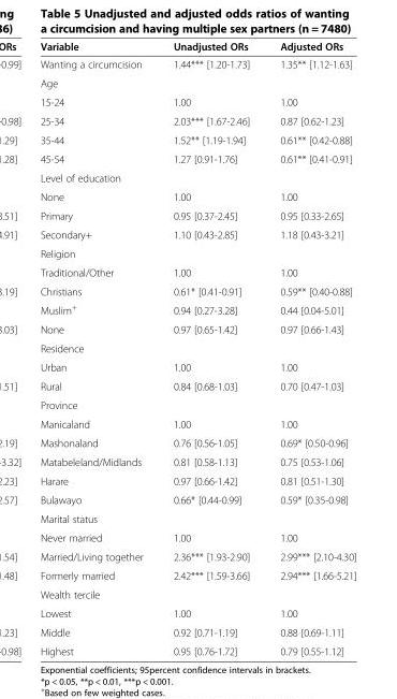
<table><thead><tr><td>Variable</td><td>Unadjusted ORs</td><td>Adjusted ORs</td></tr></thead><tbody><tr><td>Wanting a circumcision</td><td>1.44*** [1.20-1.73]</td><td>1.35** [1.12-1.63]</td></tr><tr><td colspan="3">Age</td></tr><tr><td>15-24</td><td>1.00</td><td>1.00</td></tr><tr><td>25-34</td><td>2.03*** [1.67-2.46]</td><td>0.87 [0.62-1.23]</td></tr><tr><td>35-44</td><td>1.52** [1.19-1.94]</td><td>0.61** [0.42-0.88]</td></tr><tr><td>45-54</td><td>1.27 [0.91-1.76]</td><td>0.61** [0.41-0.91]</td></tr><tr><td colspan="3">Level of education</td></tr><tr><td>None</td><td>1.00</td><td>1.00</td></tr><tr><td>Primary</td><td>0.95 [0.37-2.45]</td><td>0.95 [0.33-2.65]</td></tr><tr><td>Secondary+</td><td>1.10 [0.43-2.85]</td><td>1.18 [0.43-3.21]</td></tr><tr><td colspan="3">Religion</td></tr><tr><td>Traditional/Other</td><td>1.00</td><td>1.00</td></tr><tr><td>Christians</td><td>0.61* [0.41-0.91]</td><td>0.59** [0.40-0.88]</td></tr><tr><td>Muslim<sup>+</sup></td><td>0.94 [0.27-3.28]</td><td>0.44 [0.04-5.01]</td></tr><tr><td>None</td><td>0.97 [0.65-1.42]</td><td>0.97 [0.66-1.43]</td></tr><tr><td colspan="3">Residence</td></tr><tr><td>Urban</td><td>1.00</td><td>1.00</td></tr><tr><td>Rural</td><td>0.84 [0.68-1.03]</td><td>0.70 [0.47-1.03]</td></tr><tr><td colspan="3">Province</td></tr><tr><td>Manicaland</td><td>1.00</td><td>1.00</td></tr><tr><td>Mashonaland</td><td>0.76 [0.56-1.05]</td><td>0.69* [0.50-0.96]</td></tr><tr><td>Matabeleland/Midlands</td><td>0.81 [0.58-1.13]</td><td>0.75 [0.53-1.06]</td></tr><tr><td>Harare</td><td>0.97 [0.66-1.42]</td><td>0.81 [0.51-1.30]</td></tr><tr><td>Bulawayo</td><td>0.66* [0.44-0.99]</td><td>0.59* [0.35-0.98]</td></tr><tr><td colspan="3">Marital status</td></tr><tr><td>Never married</td><td>1.00</td><td>1.00</td></tr><tr><td>Married/Living together</td><td>2.36*** [1.93-2.90]</td><td>2.99*** [2.10-4.30]</td></tr><tr><td>Formerly married</td><td>2.42*** [1.59-3.66]</td><td>2.94*** [1.66-5.21]</td></tr><tr><td colspan="3">Wealth tercile</td></tr><tr><td>Lowest</td><td>1.00</td><td>1.00</td></tr><tr><td>Middle</td><td>0.92 [0.71-1.19]</td><td>0.88 [0.69-1.11]</td></tr><tr><td>Highest</td><td>0.95 [0.76-1.72]</td><td>0.79 [0.55-1.12]</td></tr></tbody></table>